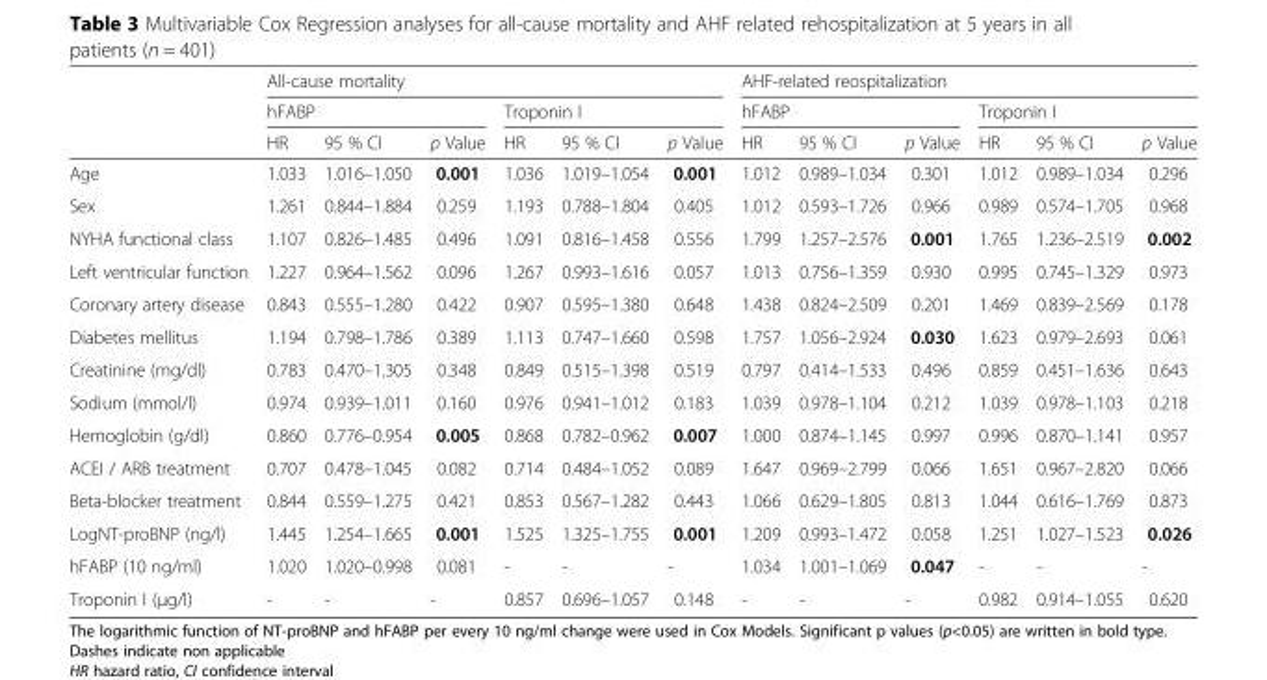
<table><thead><tr><td rowspan="3"></td><td colspan="6">All-cause mortality</td><td colspan="6">AHF-related reospitalization</td></tr><tr><td colspan="3">hFABP</td><td colspan="3">Troponin I</td><td colspan="3">hFABP</td><td colspan="3">Troponin I</td></tr><tr><td>HR</td><td>95 % CI</td><td>p Value</td><td>HR</td><td>95 % CI</td><td>p Value</td><td>HR</td><td>95 % CI</td><td>p Value</td><td>HR</td><td>95 % CI</td><td>p Value</td></tr></thead><tbody><tr><td>Age</td><td>1.033</td><td>1.016–1.050</td><td>0.001</td><td>1.036</td><td>1.019–1.054</td><td>0.001</td><td>1.012</td><td>0.989–1.034</td><td>0.301</td><td>1.012</td><td>0.989–1.034</td><td>0.296</td></tr><tr><td>Sex</td><td>1.261</td><td>0.844–1.884</td><td>0.259</td><td>1.193</td><td>0.788–1.804</td><td>0.405</td><td>1.012</td><td>0.593–1.726</td><td>0.966</td><td>0.989</td><td>0.574–1.705</td><td>0.968</td></tr><tr><td>NYHA functional class</td><td>1.107</td><td>0.826–1.485</td><td>0.496</td><td>1.091</td><td>0.816–1.458</td><td>0.556</td><td>1.799</td><td>1.257–2.576</td><td>0.001</td><td>1.765</td><td>1.236–2.519</td><td>0.002</td></tr><tr><td>Left ventricular function</td><td>1.227</td><td>0.964–1.562</td><td>0.096</td><td>1.267</td><td>0.993–1.616</td><td>0.057</td><td>1.013</td><td>0.756–1.359</td><td>0.930</td><td>0.995</td><td>0.745–1.329</td><td>0.973</td></tr><tr><td>Coronary artery disease</td><td>0.843</td><td>0.555–1.280</td><td>0.422</td><td>0.907</td><td>0.595–1.380</td><td>0.648</td><td>1.438</td><td>0.824–2.509</td><td>0.201</td><td>1.469</td><td>0.839–2.569</td><td>0.178</td></tr><tr><td>Diabetes mellitus</td><td>1.194</td><td>0.798–1.786</td><td>0.389</td><td>1.113</td><td>0.747–1.660</td><td>0.598</td><td>1.757</td><td>1.056–2.924</td><td>0.030</td><td>1.623</td><td>0.979–2.693</td><td>0.061</td></tr><tr><td>Creatinine (mg/dl)</td><td>0.783</td><td>0.470–1.305</td><td>0.348</td><td>0.849</td><td>0.515–1.398</td><td>0.519</td><td>0.797</td><td>0.414–1.533</td><td>0.496</td><td>0.859</td><td>0.451–1.636</td><td>0.643</td></tr><tr><td>Sodium (mmol/l)</td><td>0.974</td><td>0.939–1.011</td><td>0.160</td><td>0.976</td><td>0.941–1.012</td><td>0.183</td><td>1.039</td><td>0.978–1.104</td><td>0.212</td><td>1.039</td><td>0.978–1.103</td><td>0.218</td></tr><tr><td>Hemoglobin (g/dl)</td><td>0.860</td><td>0.776–0.954</td><td>0.005</td><td>0.868</td><td>0.782–0.962</td><td>0.007</td><td>1.000</td><td>0.874–1.145</td><td>0.997</td><td>0.996</td><td>0.870–1.141</td><td>0.957</td></tr><tr><td>ACEI / ARB treatment</td><td>0.707</td><td>0.478–1.045</td><td>0.082</td><td>0.714</td><td>0.484–1.052</td><td>0.089</td><td>1.647</td><td>0.969–2.799</td><td>0.066</td><td>1.651</td><td>0.967–2.820</td><td>0.066</td></tr><tr><td>Beta-blocker treatment</td><td>0.844</td><td>0.559–1.275</td><td>0.421</td><td>0.853</td><td>0.567–1.282</td><td>0.443</td><td>1.066</td><td>0.629–1.805</td><td>0.813</td><td>1.044</td><td>0.616–1.769</td><td>0.873</td></tr><tr><td>LogNT-proBNP (ng/l)</td><td>1.445</td><td>1.254–1.665</td><td>0.001</td><td>1.525</td><td>1.325–1.755</td><td>0.001</td><td>1.209</td><td>0.993–1.472</td><td>0.058</td><td>1.251</td><td>1.027–1.523</td><td>0.026</td></tr><tr><td>hFABP (10 ng/ml)</td><td>1.020</td><td>1.020–0.998</td><td>0.081</td><td>-</td><td>-</td><td>-</td><td>1.034</td><td>1.001–1.069</td><td>0.047</td><td>-</td><td>-</td><td>-</td></tr><tr><td>Troponin I (μg/l)</td><td>-</td><td>-</td><td>-</td><td>0.857</td><td>0.696–1.057</td><td>0.148</td><td>-</td><td>-</td><td>-</td><td>0.982</td><td>0.914–1.055</td><td>0.620</td></tr></tbody></table>